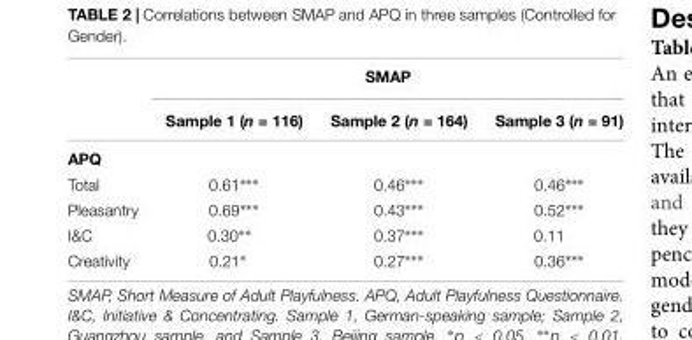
<table><thead><tr><td rowspan="2"></td><td colspan="3">SMAP</td></tr><tr><td>Sample 1 (n = 116)</td><td>Sample 2 (n = 164)</td><td>Sample 3 (n = 91)</td></tr></thead><tbody><tr><td colspan="4">APQ</td></tr><tr><td>Total</td><td>0.61∗∗∗</td><td>0.46∗∗∗</td><td>0.46∗∗∗</td></tr><tr><td>Pleasantry</td><td>0.69∗∗∗</td><td>0.43∗∗∗</td><td>0.52∗∗∗</td></tr><tr><td>I&amp;C</td><td>0.30∗∗</td><td>0.37∗∗∗</td><td>0.11</td></tr><tr><td>Creativity</td><td>0.21∗</td><td>0.27∗∗∗</td><td>0.36∗∗∗</td></tr></tbody></table>